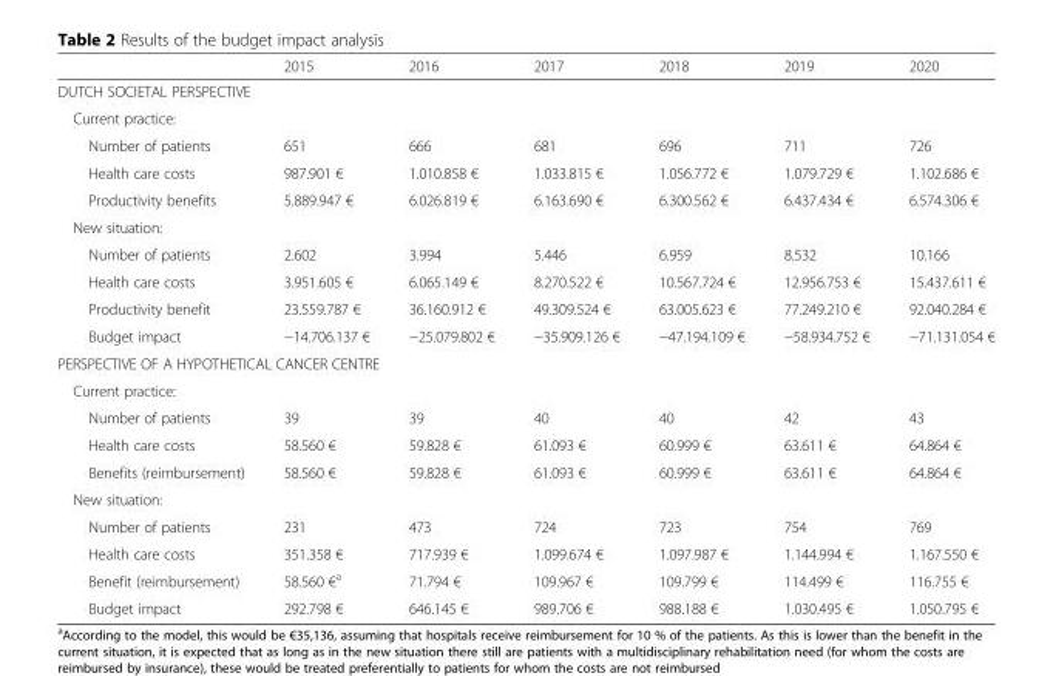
<table><thead><tr><td></td><td>2015</td><td>2016</td><td>2017</td><td>2018</td><td>2019</td><td>2020</td></tr></thead><tbody><tr><td colspan="7">DUTCH SOCIETAL PERSPECTIVE</td></tr><tr><td colspan="7">Current practice:</td></tr><tr><td>Number of patients</td><td>651</td><td>666</td><td>681</td><td>696</td><td>711</td><td>726</td></tr><tr><td>Health care costs</td><td>987.901 €</td><td>1.010.858 €</td><td>1.033.815 €</td><td>1.056.772 €</td><td>1.079.729 €</td><td>1.102.686 €</td></tr><tr><td>Productivity benefits</td><td>5.889.947 €</td><td>6.026.819 €</td><td>6.163.690 €</td><td>6.300.562 €</td><td>6.437.434 €</td><td>6.574.306 €</td></tr><tr><td colspan="7">New situation:</td></tr><tr><td>Number of patients</td><td>2.602</td><td>3.994</td><td>5.446</td><td>6.959</td><td>8.532</td><td>10.166</td></tr><tr><td>Health care costs</td><td>3.951.605 €</td><td>6.065.149 €</td><td>8.270.522 €</td><td>10.567.724 €</td><td>12.956.753 €</td><td>15.437.611 €</td></tr><tr><td>Productivity benefit</td><td>23.559.787 €</td><td>36.160.912 €</td><td>49.309.524 €</td><td>63.005.623 €</td><td>77.249.210 €</td><td>92.040.284 €</td></tr><tr><td>Budget impact</td><td>−14.706.137 €</td><td>−25.079.802 €</td><td>−35.909.126 €</td><td>−47.194.109 €</td><td>−58.934.752 €</td><td>−71.131.054 €</td></tr><tr><td colspan="7">PERSPECTIVE OF A HYPOTHETICAL CANCER CENTRE</td></tr><tr><td colspan="7">Current practice:</td></tr><tr><td>Number of patients</td><td>39</td><td>39</td><td>40</td><td>40</td><td>42</td><td>43</td></tr><tr><td>Health care costs</td><td>58.560 €</td><td>59.828 €</td><td>61.093 €</td><td>60.999 €</td><td>63.611 €</td><td>64.864 €</td></tr><tr><td>Benefits (reimbursement)</td><td>58.560 €</td><td>59.828 €</td><td>61.093 €</td><td>60.999 €</td><td>63.611 €</td><td>64.864 €</td></tr><tr><td colspan="7">New situation:</td></tr><tr><td>Number of patients</td><td>231</td><td>473</td><td>724</td><td>723</td><td>754</td><td>769</td></tr><tr><td>Health care costs</td><td>351.358 €</td><td>717.939 €</td><td>1.099.674 €</td><td>1.097.987 €</td><td>1.144.994 €</td><td>1.167.550 €</td></tr><tr><td>Benefit (reimbursement)</td><td>58.560 €<sup>a</sup></td><td>71.794 €</td><td>109.967 €</td><td>109.799 €</td><td>114.499 €</td><td>116.755 €</td></tr><tr><td>Budget impact</td><td>292.798 €</td><td>646.145 €</td><td>989.706 €</td><td>988.188 €</td><td>1.030.495 €</td><td>1.050.795 €</td></tr></tbody></table>